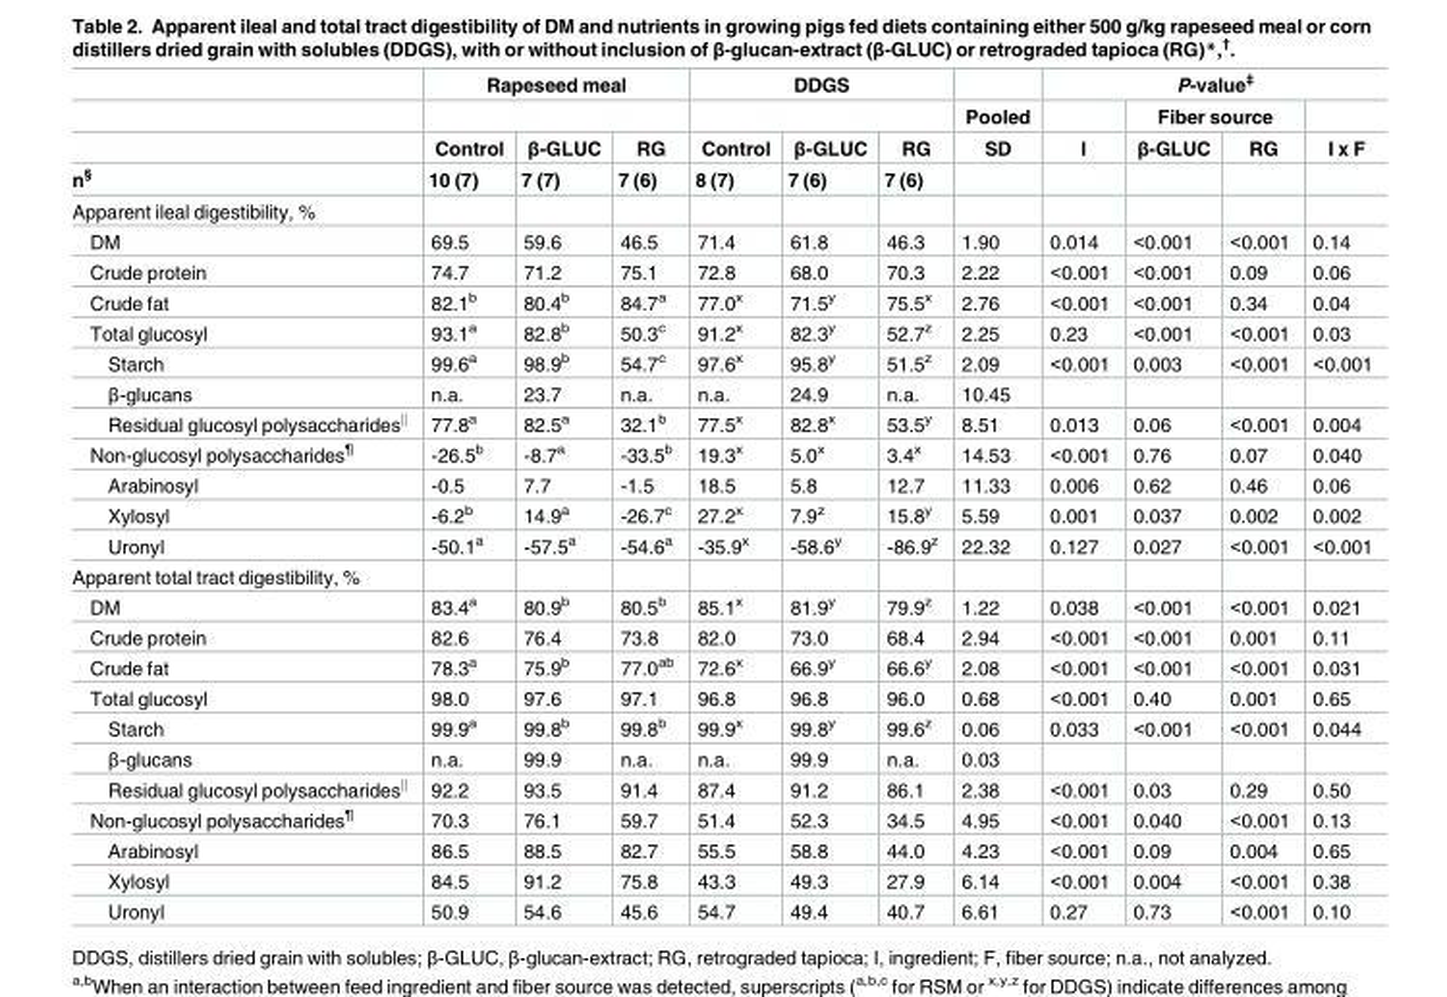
<table><thead><tr><td rowspan="4">n<sup>§</sup></td><td colspan="3">Rapeseed meal</td><td colspan="3">DDGS</td><td rowspan="4">Pooled SD</td><td colspan="4">P-value<sup>‡</sup></td></tr><tr><td rowspan="3">Control 10 (7)</td><td rowspan="3">β-GLUC 7 (7)</td><td rowspan="3">RG 7 (6)</td><td rowspan="3">Control 8 (7)</td><td rowspan="3">β-GLUC 7 (6)</td><td rowspan="3">RG 7 (6)</td><td rowspan="3">I</td><td colspan="2">Fiber source</td><td rowspan="3">I x F</td></tr><tr><td rowspan="2">β-GLUC</td><td rowspan="2">RG</td></tr><tr></tr></thead><tbody><tr><td colspan="12">Apparent ileal digestibility, %</td></tr><tr><td>DM</td><td>69.5</td><td>59.6</td><td>46.5</td><td>71.4</td><td>61.8</td><td>46.3</td><td>1.90</td><td>0.014</td><td>&lt;0.001</td><td>&lt;0.001</td><td>0.14</td></tr><tr><td>Crude protein</td><td>74.7</td><td>71.2</td><td>75.1</td><td>72.8</td><td>68.0</td><td>70.3</td><td>2.22</td><td>&lt;0.001</td><td>&lt;0.001</td><td>0.09</td><td>0.06</td></tr><tr><td>Crude fat</td><td>82.1<sup>b</sup></td><td>80.4<sup>b</sup></td><td>84.7<sup>a</sup></td><td>77.0<sup>x</sup></td><td>71.5<sup>y</sup></td><td>75.5<sup>x</sup></td><td>2.76</td><td>&lt;0.001</td><td>&lt;0.001</td><td>0.34</td><td>0.04</td></tr><tr><td>Total glucosyl</td><td>93.1<sup>a</sup></td><td>82.8<sup>b</sup></td><td>50.3<sup>c</sup></td><td>91.2<sup>x</sup></td><td>82.3<sup>y</sup></td><td>52.7<sup>z</sup></td><td>2.25</td><td>0.23</td><td>&lt;0.001</td><td>&lt;0.001</td><td>0.03</td></tr><tr><td>Starch</td><td>99.6<sup>a</sup></td><td>98.9<sup>b</sup></td><td>54.7<sup>c</sup></td><td>97.6<sup>x</sup></td><td>95.8<sup>y</sup></td><td>51.5<sup>z</sup></td><td>2.09</td><td>&lt;0.001</td><td>0.003</td><td>&lt;0.001</td><td>&lt;0.001</td></tr><tr><td>β-glucans</td><td>n.a.</td><td>23.7</td><td>n.a.</td><td>n.a.</td><td>24.9</td><td>n.a.</td><td>10.45</td><td></td><td></td><td></td><td></td></tr><tr><td>Residual glucosyl polysaccharides<sup>‖</sup></td><td>77.8<sup>a</sup></td><td>82.5<sup>a</sup></td><td>32.1<sup>b</sup></td><td>77.5<sup>x</sup></td><td>82.8<sup>x</sup></td><td>53.5<sup>y</sup></td><td>8.51</td><td>0.013</td><td>0.06</td><td>&lt;0.001</td><td>0.004</td></tr><tr><td>Non-glucosyl polysaccharides<sup>¶</sup></td><td>-26.5<sup>b</sup></td><td>-8.7<sup>a</sup></td><td>-33.5<sup>b</sup></td><td>19.3<sup>x</sup></td><td>5.0<sup>x</sup></td><td>3.4<sup>x</sup></td><td>14.53</td><td>&lt;0.001</td><td>0.76</td><td>0.07</td><td>0.040</td></tr><tr><td>Arabinosyl</td><td>-0.5</td><td>7.7</td><td>-1.5</td><td>18.5</td><td>5.8</td><td>12.7</td><td>11.33</td><td>0.006</td><td>0.62</td><td>0.46</td><td>0.06</td></tr><tr><td>Xylosyl</td><td>-6.2<sup>b</sup></td><td>14.9<sup>a</sup></td><td>-26.7<sup>c</sup></td><td>27.2<sup>x</sup></td><td>7.9<sup>z</sup></td><td>15.8<sup>y</sup></td><td>5.59</td><td>0.001</td><td>0.037</td><td>0.002</td><td>0.002</td></tr><tr><td>Uronyl</td><td>-50.1<sup>a</sup></td><td>-57.5<sup>a</sup></td><td>-54.6<sup>a</sup></td><td>-35.9<sup>x</sup></td><td>-58.6<sup>y</sup></td><td>-86.9<sup>z</sup></td><td>22.32</td><td>0.127</td><td>0.027</td><td>&lt;0.001</td><td>&lt;0.001</td></tr><tr><td colspan="12">Apparent total tract digestibility, %</td></tr><tr><td>DM</td><td>83.4<sup>a</sup></td><td>80.9<sup>b</sup></td><td>80.5<sup>b</sup></td><td>85.1<sup>x</sup></td><td>81.9<sup>y</sup></td><td>79.9<sup>z</sup></td><td>1.22</td><td>0.038</td><td>&lt;0.001</td><td>&lt;0.001</td><td>0.021</td></tr><tr><td>Crude protein</td><td>82.6</td><td>76.4</td><td>73.8</td><td>82.0</td><td>73.0</td><td>68.4</td><td>2.94</td><td>&lt;0.001</td><td>&lt;0.001</td><td>0.001</td><td>0.11</td></tr><tr><td>Crude fat</td><td>78.3<sup>a</sup></td><td>75.9<sup>b</sup></td><td>77.0<sup>ab</sup></td><td>72.6<sup>x</sup></td><td>66.9<sup>y</sup></td><td>66.6<sup>y</sup></td><td>2.08</td><td>&lt;0.001</td><td>&lt;0.001</td><td>&lt;0.001</td><td>0.031</td></tr><tr><td>Total glucosyl</td><td>98.0</td><td>97.6</td><td>97.1</td><td>96.8</td><td>96.8</td><td>96.0</td><td>0.68</td><td>&lt;0.001</td><td>0.40</td><td>0.001</td><td>0.65</td></tr><tr><td>Starch</td><td>99.9<sup>a</sup></td><td>99.8<sup>b</sup></td><td>99.8<sup>b</sup></td><td>99.9<sup>x</sup></td><td>99.8<sup>y</sup></td><td>99.6<sup>z</sup></td><td>0.06</td><td>0.033</td><td>&lt;0.001</td><td>&lt;0.001</td><td>0.044</td></tr><tr><td>β-glucans</td><td>n.a.</td><td>99.9</td><td>n.a.</td><td>n.a.</td><td>99.9</td><td>n.a.</td><td>0.03</td><td></td><td></td><td></td><td></td></tr><tr><td>Residual glucosyl polysaccharides<sup>‖</sup></td><td>92.2</td><td>93.5</td><td>91.4</td><td>87.4</td><td>91.2</td><td>86.1</td><td>2.38</td><td>&lt;0.001</td><td>0.03</td><td>0.29</td><td>0.50</td></tr><tr><td>Non-glucosyl polysaccharides<sup>¶</sup></td><td>70.3</td><td>76.1</td><td>59.7</td><td>51.4</td><td>52.3</td><td>34.5</td><td>4.95</td><td>&lt;0.001</td><td>0.040</td><td>&lt;0.001</td><td>0.13</td></tr><tr><td>Arabinosyl</td><td>86.5</td><td>88.5</td><td>82.7</td><td>55.5</td><td>58.8</td><td>44.0</td><td>4.23</td><td>&lt;0.001</td><td>0.09</td><td>0.004</td><td>0.65</td></tr><tr><td>Xylosyl</td><td>84.5</td><td>91.2</td><td>75.8</td><td>43.3</td><td>49.3</td><td>27.9</td><td>6.14</td><td>&lt;0.001</td><td>0.004</td><td>&lt;0.001</td><td>0.38</td></tr><tr><td>Uronyl</td><td>50.9</td><td>54.6</td><td>45.6</td><td>54.7</td><td>49.4</td><td>40.7</td><td>6.61</td><td>0.27</td><td>0.73</td><td>&lt;0.001</td><td>0.10</td></tr></tbody></table>